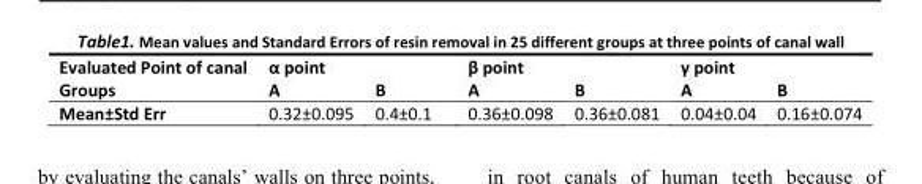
<table><thead><tr><td rowspan="2">Evaluated Point of canal Groups</td><td colspan="2">α point</td><td colspan="2">β point</td><td colspan="2">γ point</td></tr><tr><td>A</td><td>B</td><td>A</td><td>B</td><td>A</td><td>B</td></tr></thead><tbody><tr><td>Mean±Std Err</td><td>0.32±0.095</td><td>0.4±0.1</td><td>0.36±0.098</td><td>0.36±0.081</td><td>0.04±0.04</td><td>0.16±0.074</td></tr></tbody></table>